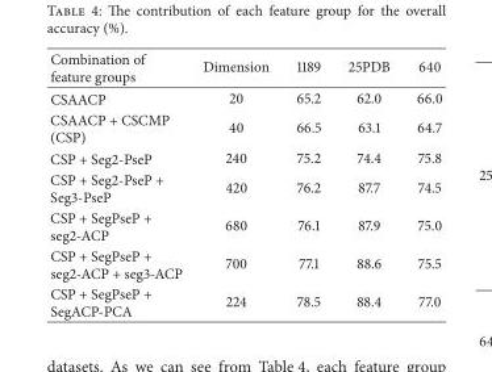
<table><thead><tr><td>Combination of feature groups</td><td>Dimension</td><td>1189</td><td>25PDB</td><td>640</td></tr></thead><tbody><tr><td>CSAACP</td><td>20</td><td>65.2</td><td>62.0</td><td>66.0</td></tr><tr><td>CSAACP + CSCMP (CSP)</td><td>40</td><td>66.5</td><td>63.1</td><td>64.7</td></tr><tr><td>CSP + Seg2-PseP</td><td>240</td><td>75.2</td><td>74.4</td><td>75.8</td></tr><tr><td>CSP + Seg2-PseP + Seg3-PseP</td><td>420</td><td>76.2</td><td>87.7</td><td>74.5</td></tr><tr><td>CSP + SegPseP + seg2-ACP</td><td>680</td><td>76.1</td><td>87.9</td><td>75.0</td></tr><tr><td>CSP + SegPseP + seg2-ACP + seg3-ACP</td><td>700</td><td>77.1</td><td>88.6</td><td>75.5</td></tr><tr><td>CSP + SegPseP + SegACP-PCA</td><td>224</td><td>78.5</td><td>88.4</td><td>77.0</td></tr></tbody></table>